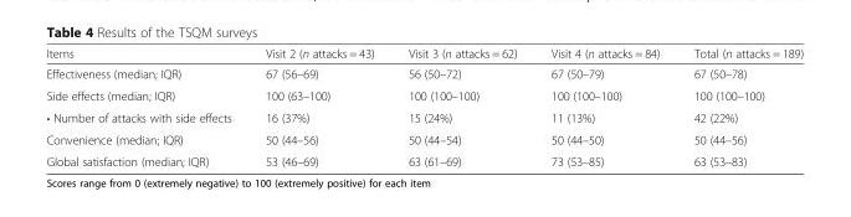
<table><thead><tr><td>Items</td><td>Visit 2 (n attacks = 43)</td><td>Visit 3 (n attacks = 62)</td><td>Visit 4 (n attacks = 84)</td><td>Total (n attacks = 189)</td></tr></thead><tbody><tr><td>Effectiveness (median; IQR)</td><td>67 (56–69)</td><td>56 (50–72)</td><td>67 (50–79)</td><td>67 (50–78)</td></tr><tr><td>Side effects (median; IQR)</td><td>100 (63–100)</td><td>100 (100–100)</td><td>100 (100–100)</td><td>100 (100–100)</td></tr><tr><td>• Number of attacks with side effects</td><td>16 (37%)</td><td>15 (24%)</td><td>11 (13%)</td><td>42 (22%)</td></tr><tr><td>Convenience (median; IQR)</td><td>50 (44–56)</td><td>50 (44–54)</td><td>50 (44–50)</td><td>50 (44–56)</td></tr><tr><td>Global satisfaction (median; IQR)</td><td>53 (46–69)</td><td>63 (61–69)</td><td>73 (53–85)</td><td>63 (53–83)</td></tr></tbody></table>